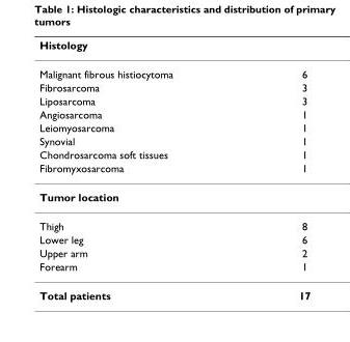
<table><thead><tr><td>Histology</td><td></td></tr></thead><tbody><tr><td>Malignant fibrous histiocytoma</td><td>6</td></tr><tr><td>Fibrosarcoma</td><td>3</td></tr><tr><td>Liposarcoma</td><td>3</td></tr><tr><td>Angiosarcoma</td><td>1</td></tr><tr><td>Leiomyosarcoma</td><td>1</td></tr><tr><td>Synovial</td><td>1</td></tr><tr><td>Chondrosarcoma soft tissues</td><td>1</td></tr><tr><td>Fibromyxosarcoma</td><td>1</td></tr><tr><td colspan="2">Tumor location</td></tr><tr><td>Thigh</td><td>8</td></tr><tr><td>Lower leg</td><td>6</td></tr><tr><td>Upper arm</td><td>2</td></tr><tr><td>Forearm</td><td>1</td></tr><tr><td>Total patients</td><td>17</td></tr></tbody></table>